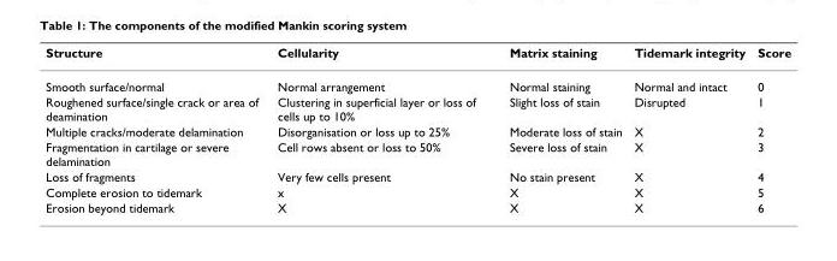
<table><thead><tr><td>Structure</td><td>Cellularity</td><td>Matrix staining</td><td>Tidemark integrity</td><td>Score</td></tr></thead><tbody><tr><td>Smooth surface/normal</td><td>Normal arrangement</td><td>Normal staining</td><td>Normal and intact</td><td>0</td></tr><tr><td>Roughened surface/single crack or area of deamination</td><td>Clustering in superficial layer or loss of cells up to 10%</td><td>Slight loss of stain</td><td>Disrupted</td><td>1</td></tr><tr><td>Multiple cracks/moderate delamination</td><td>Disorganisation or loss up to 25%</td><td>Moderate loss of stain</td><td>X</td><td>2</td></tr><tr><td>Fragmentation in cartilage or severe delamination</td><td>Cell rows absent or loss to 50%</td><td>Severe loss of stain</td><td>X</td><td>3</td></tr><tr><td>Loss of fragments</td><td>Very few cells present</td><td>No stain present</td><td>X</td><td>4</td></tr><tr><td>Complete erosion to tidemark</td><td>x</td><td>X</td><td>X</td><td>5</td></tr><tr><td>Erosion beyond tidemark</td><td>X</td><td>X</td><td>X</td><td>6</td></tr></tbody></table>